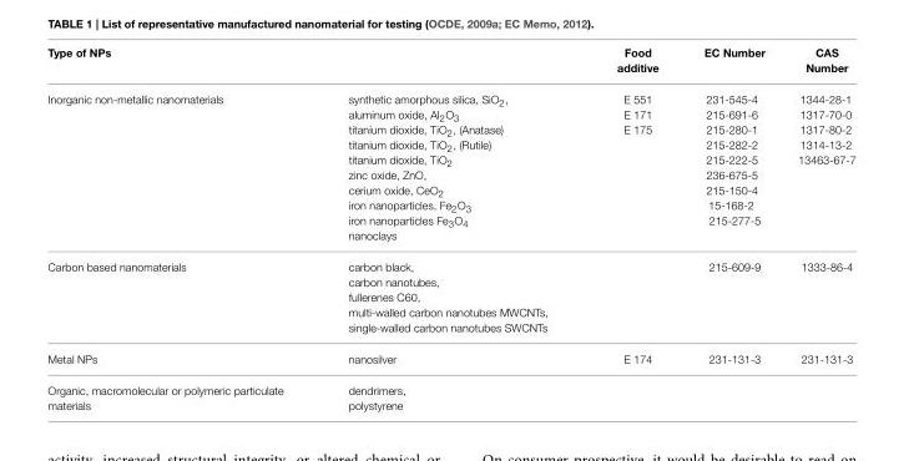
<table><thead><tr><td>Type of NPs</td><td></td><td>Food additive</td><td>EC Number</td><td>CAS Number</td></tr></thead><tbody><tr><td>Inorganic non-metallic nanomaterials</td><td>synthetic amorphous silica, SiO<sub>2</sub>, aluminum oxide, Al<sub>2</sub>O<sub>3</sub> titanium dioxide, TiO<sub>2</sub>, (Anatase) titanium dioxide, TiO<sub>2</sub>, (Rutile) titanium dioxide, TiO<sub>2</sub> zinc oxide, ZnO, cerium oxide, CeO<sub>2</sub> iron nanoparticles, Fe<sub>2</sub>O<sub>3</sub> iron nanoparticles Fe<sub>3</sub>O<sub>4</sub> nanoclays</td><td>E 551 E 171 E 175</td><td>231-545-4 215-691-6 215-280-1 215-282-2 215-222-5 236-675-5 215-150-4 15-168-2 215-277-5</td><td>1344-28-1 1317-70-0 1317-80-2 1314-13-2 13463-67-7</td></tr><tr><td>Carbon based nanomaterials</td><td>carbon black, carbon nanotubes, fullerenes C60, multi-walled carbon nanotubes MWCNTs, single-walled carbon nanotubes SWCNTs</td><td></td><td>215-609-9</td><td>1333-86-4</td></tr><tr><td>Metal NPs</td><td>nanosilver</td><td>E 174</td><td>231-131-3</td><td>231-131-3</td></tr><tr><td>Organic, macromolecular or polymeric particulate materials</td><td>dendrimers, polystyrene</td><td></td><td></td><td></td></tr></tbody></table>